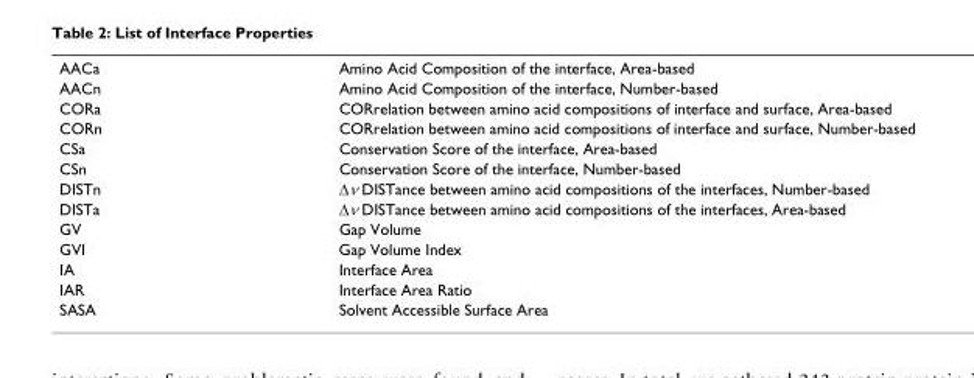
<table><tbody><tr><td>AACa</td><td>Amino Acid Composition of the interface, Area-based</td></tr><tr><td>AACn</td><td>Amino Acid Composition of the interface, Number-based</td></tr><tr><td>CORa</td><td>CORrelation between amino acid compositions of interface and surface, Area-based</td></tr><tr><td>CORn</td><td>CORrelation between amino acid compositions of interface and surface, Number-based</td></tr><tr><td>CSa</td><td>Conservation Score of the interface, Area-based</td></tr><tr><td>CSn</td><td>Conservation Score of the interface, Number-based</td></tr><tr><td>DISTn</td><td>∆ν DISTance between amino acid compositions of the interfaces, Number-based</td></tr><tr><td>DISTa</td><td>∆ν DISTance between amino acid compositions of the interfaces, Area-based</td></tr><tr><td>GV</td><td>Gap Volume</td></tr><tr><td>GVI</td><td>Gap Volume Index</td></tr><tr><td>IA</td><td>Interface Area</td></tr><tr><td>IAR</td><td>Interface Area Ratio</td></tr><tr><td>SASA</td><td>Solvent Accessible Surface Area</td></tr></tbody></table>